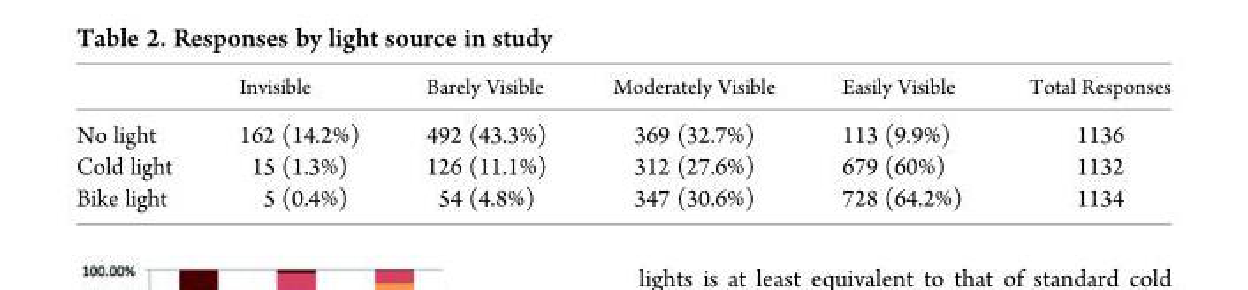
<table><thead><tr><td></td><td>Invisible</td><td>Barely Visible</td><td>Moderately Visible</td><td>Easily Visible</td><td>Total Responses</td></tr></thead><tbody><tr><td>No light</td><td>162 (14.2%)</td><td>492 (43.3%)</td><td>369 (32.7%)</td><td>113 (9.9%)</td><td>1136</td></tr><tr><td>Cold light</td><td>15 (1.3%)</td><td>126 (11.1%)</td><td>312 (27.6%)</td><td>679 (60%)</td><td>1132</td></tr><tr><td>Bike light</td><td>5 (0.4%)</td><td>54 (4.8%)</td><td>347 (30.6%)</td><td>728 (64.2%)</td><td>1134</td></tr></tbody></table>